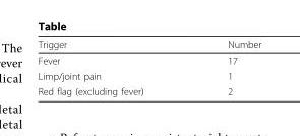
<table><thead><tr><td>Trigger</td><td>Number</td></tr></thead><tbody><tr><td>Fever</td><td>17</td></tr><tr><td>Limp/joint pain</td><td>1</td></tr><tr><td>Red flag (excluding fever)</td><td>2</td></tr></tbody></table>